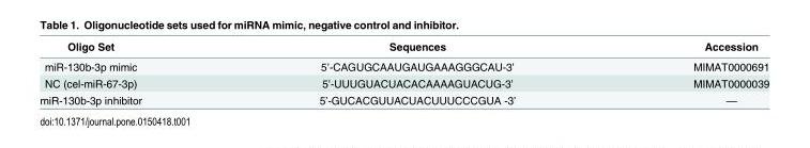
<table><thead><tr><td>Oligo Set</td><td>Sequences</td><td>Accession</td></tr></thead><tbody><tr><td>miR-130b-3p mimic</td><td>5’-CAGUGCAAUGAUGAAAGGGCAU-3’</td><td>MIMAT0000691</td></tr><tr><td>NC (cel-miR-67-3p)</td><td>5’-UUUGUACUACACAAAAGUACUG-3’</td><td>MIMAT0000039</td></tr><tr><td>miR-130b-3p inhibitor</td><td>5’-GUCACGUUACUACUUUCCCGUA -3’</td><td>―</td></tr></tbody></table>